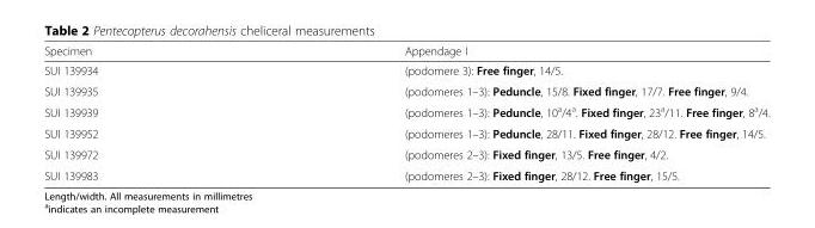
<table><thead><tr><td>Specimen</td><td>Appendage I</td></tr></thead><tbody><tr><td>SUI 139934</td><td>(podomere 3): Free finger, 14/5.</td></tr><tr><td>SUI 139935</td><td>(podomeres 1–3): Peduncle, 15/8. Fixed finger, 17/7. Free finger, 9/4.</td></tr><tr><td>SUI 139939</td><td>(podomeres 1–3): Peduncle, 10<sup>a</sup>/4<sup>a</sup>. Fixed finger, 23<sup>a</sup>/11. Free finger, 8<sup>a</sup>/4.</td></tr><tr><td>SUI 139952</td><td>(podomeres 1–3): Peduncle, 28/11. Fixed finger, 28/12. Free finger, 14/5.</td></tr><tr><td>SUI 139972</td><td>(podomeres 2–3): Fixed finger, 13/5. Free finger, 4/2.</td></tr><tr><td>SUI 139983</td><td>(podomeres 2–3): Fixed finger, 28/12. Free finger, 15/5.</td></tr></tbody></table>